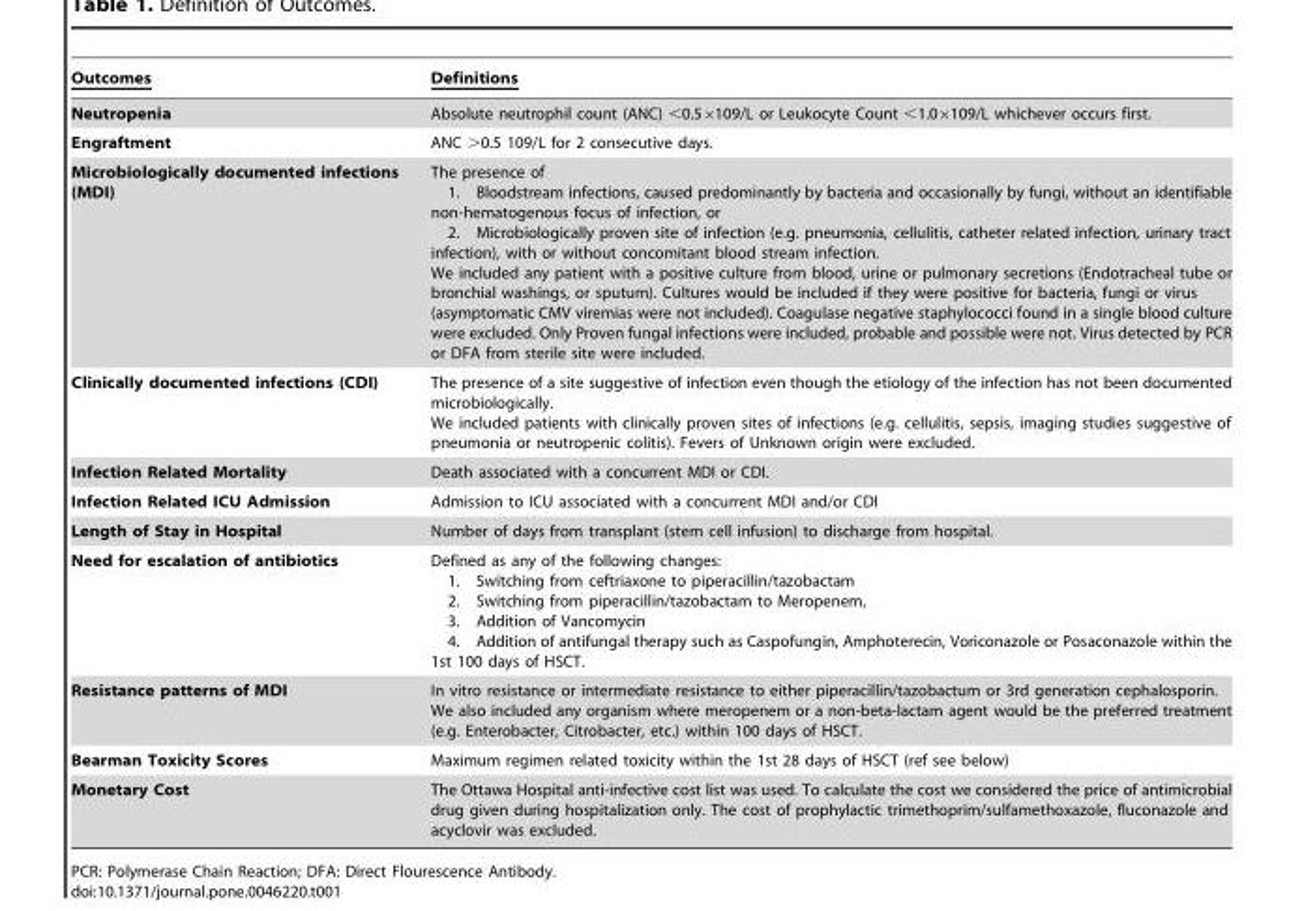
<table><thead><tr><td>Outcomes</td><td>Definitions</td></tr></thead><tbody><tr><td>Neutropenia</td><td>Absolute neutrophil count (ANC) &lt;0.5×109/L or Leukocyte Count &lt;1.0×109/L whichever occurs first.</td></tr><tr><td>Engraftment</td><td>ANC &gt;0.5 109/L for 2 consecutive days.</td></tr><tr><td>Microbiologically documented infections (MDI)</td><td>The presence of 1. Bloodstream infections, caused predominantly by bacteria and occasionally by fungi, without an identifiable non-hematogenous focus of infection, or 2. Microbiologically proven site of infection (e.g. pneumonia, cellulitis, catheter related infection, urinary tract infection), with or without concomitant blood stream infection. We included any patient with a positive culture from blood, urine or pulmonary secretions (Endotracheal tube or bronchial washings, or sputum). Cultures would be included if they were positive for bacteria, fungi or virus (asymptomatic CMV viremias were not included). Coagulase negative staphylococci found in a single blood culture were excluded. Only Proven fungal infections were included, probable and possible were not. Virus detected by PCR or DFA from sterile site were included.</td></tr><tr><td>Clinically documented infections (CDI)</td><td>The presence of a site suggestive of infection even though the etiology of the infection has not been documented microbiologically. We included patients with clinically proven sites of infections (e.g. cellulitis, sepsis, imaging studies suggestive of pneumonia or neutropenic colitis). Fevers of Unknown origin were excluded.</td></tr><tr><td>Infection Related Mortality</td><td>Death associated with a concurrent MDI or CDI.</td></tr><tr><td>Infection Related ICU Admission</td><td>Admission to ICU associated with a concurrent MDI and/or CDI</td></tr><tr><td>Length of Stay in Hospital</td><td>Number of days from transplant (stem cell infusion) to discharge from hospital.</td></tr><tr><td>Need for escalation of antibiotics</td><td>Defined as any of the following changes: 1. Switching from ceftriaxone to piperacillin/tazobactam 2. Switching from piperacillin/tazobactam to Meropenem, 3. Addition of Vancomycin 4. Addition of antifungal therapy such as Caspofungin, Amphoterecin, Voriconazole or Posaconazole within the 1st 100 days of HSCT.</td></tr><tr><td>Resistance patterns of MDI</td><td>In vitro resistance or intermediate resistance to either piperacillin/tazobactum or 3rd generation cephalosporin. We also included any organism where meropenem or a non-beta-lactam agent would be the preferred treatment (e.g. Enterobacter, Citrobacter, etc.) within 100 days of HSCT.</td></tr><tr><td>Bearman Toxicity Scores</td><td>Maximum regimen related toxicity within the 1st 28 days of HSCT (ref see below)</td></tr><tr><td>Monetary Cost</td><td>The Ottawa Hospital anti-infective cost list was used. To calculate the cost we considered the price of antimicrobial drug given during hospitalization only. The cost of prophylactic trimethoprim/sulfamethoxazole, fluconazole and acyclovir was excluded.</td></tr></tbody></table>